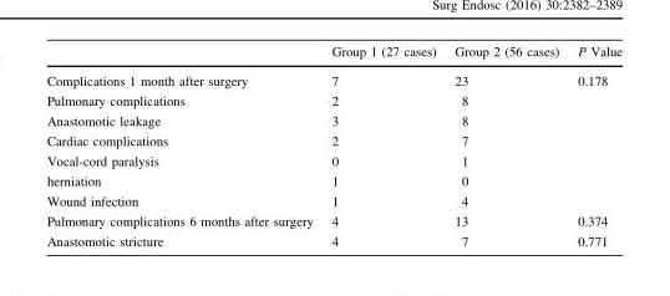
<table><thead><tr><td></td><td>Group 1 (27 cases)</td><td>Group 2 (56 cases)</td><td>P Value</td></tr></thead><tbody><tr><td>Complications 1 month after surgery</td><td>7</td><td>23</td><td>0.178</td></tr><tr><td>Pulmonary complications</td><td>2</td><td>8</td><td></td></tr><tr><td>Anastomotic leakage</td><td>3</td><td>8</td><td></td></tr><tr><td>Cardiac complications</td><td>2</td><td>7</td><td></td></tr><tr><td>Vocal-cord paralysis</td><td>0</td><td>1</td><td></td></tr><tr><td>herniation</td><td>1</td><td>0</td><td></td></tr><tr><td>Wound infection</td><td>1</td><td>4</td><td></td></tr><tr><td>Pulmonary complications 6 months after surgery</td><td>4</td><td>13</td><td>0.374</td></tr><tr><td>Anastomotic stricture</td><td>4</td><td>7</td><td>0.771</td></tr></tbody></table>